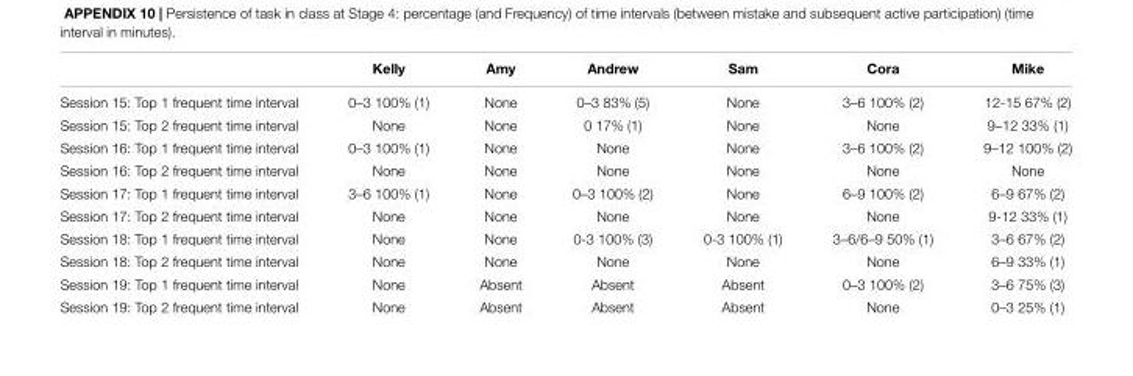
<table><thead><tr><td></td><td>Kelly</td><td>Amy</td><td>Andrew</td><td>Sam</td><td>Cora</td><td>Mike</td></tr></thead><tbody><tr><td>Session 15: Top 1 frequent time interval</td><td>0–3 100% (1)</td><td>None</td><td>0–3 83% (5)</td><td>None</td><td>3–6 100% (2)</td><td>12-15 67% (2)</td></tr><tr><td>Session 15: Top 2 frequent time interval</td><td>None</td><td>None</td><td>0 17% (1)</td><td>None</td><td>None</td><td>9–12 33% (1)</td></tr><tr><td>Session 16: Top 1 frequent time interval</td><td>0–3 100% (1)</td><td>None</td><td>None</td><td>None</td><td>3–6 100% (2)</td><td>9–12 100% (2)</td></tr><tr><td>Session 16: Top 2 frequent time interval</td><td>None</td><td>None</td><td>None</td><td>None</td><td>None</td><td>None</td></tr><tr><td>Session 17: Top 1 frequent time interval</td><td>3–6 100% (1)</td><td>None</td><td>0–3 100% (2)</td><td>None</td><td>6–9 100% (2)</td><td>6–9 67% (2)</td></tr><tr><td>Session 17: Top 2 frequent time interval</td><td>None</td><td>None</td><td>None</td><td>None</td><td>None</td><td>9-12 33% (1)</td></tr><tr><td>Session 18: Top 1 frequent time interval</td><td>None</td><td>None</td><td>0-3 100% (3)</td><td>0-3 100% (1)</td><td>3–6/6–9 50% (1)</td><td>3–6 67% (2)</td></tr><tr><td>Session 18: Top 2 frequent time interval</td><td>None</td><td>None</td><td>None</td><td>None</td><td>None</td><td>6–9 33% (1)</td></tr><tr><td>Session 19: Top 1 frequent time interval</td><td>None</td><td>Absent</td><td>Absent</td><td>Absent</td><td>0–3 100% (2)</td><td>3–6 75% (3)</td></tr><tr><td>Session 19: Top 2 frequent time interval</td><td>None</td><td>Absent</td><td>Absent</td><td>Absent</td><td>None</td><td>0–3 25% (1)</td></tr></tbody></table>